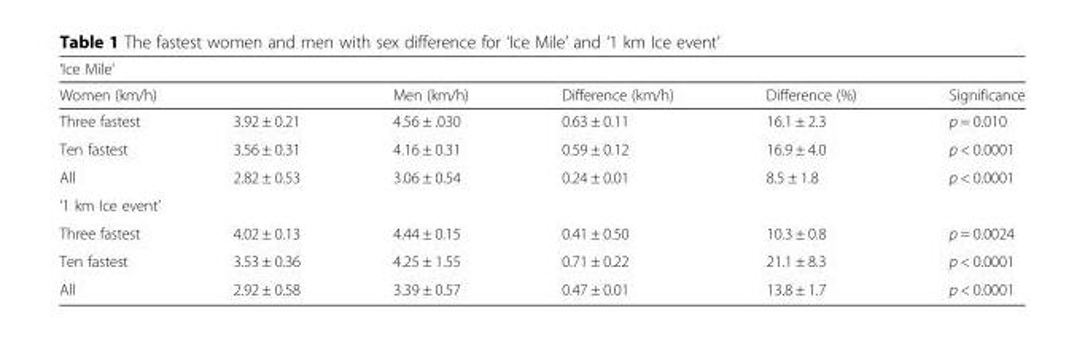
<table><thead><tr><td colspan="6">‘Ice Mile’</td></tr><tr><td colspan="2">Women (km/h)</td><td rowspan="2">Men (km/h) 4.56 ± .030</td><td rowspan="2">Difference (km/h) 0.63 ± 0.11</td><td rowspan="2">Difference (%) 16.1 ± 2.3</td><td rowspan="2">Significance p = 0.010</td></tr><tr><td>Three fastest</td><td>3.92 ± 0.21</td></tr></thead><tbody><tr><td>Ten fastest</td><td>3.56 ± 0.31</td><td>4.16 ± 0.31</td><td>0.59 ± 0.12</td><td>16.9 ± 4.0</td><td>p &lt; 0.0001</td></tr><tr><td>All</td><td>2.82 ± 0.53</td><td>3.06 ± 0.54</td><td>0.24 ± 0.01</td><td>8.5 ± 1.8</td><td>p &lt; 0.0001</td></tr><tr><td colspan="6">‘1 km Ice event’</td></tr><tr><td>Three fastest</td><td>4.02 ± 0.13</td><td>4.44 ± 0.15</td><td>0.41 ± 0.50</td><td>10.3 ± 0.8</td><td>p = 0.0024</td></tr><tr><td>Ten fastest</td><td>3.53 ± 0.36</td><td>4.25 ± 1.55</td><td>0.71 ± 0.22</td><td>21.1 ± 8.3</td><td>p &lt; 0.0001</td></tr><tr><td>All</td><td>2.92 ± 0.58</td><td>3.39 ± 0.57</td><td>0.47 ± 0.01</td><td>13.8 ± 1.7</td><td>p &lt; 0.0001</td></tr></tbody></table>